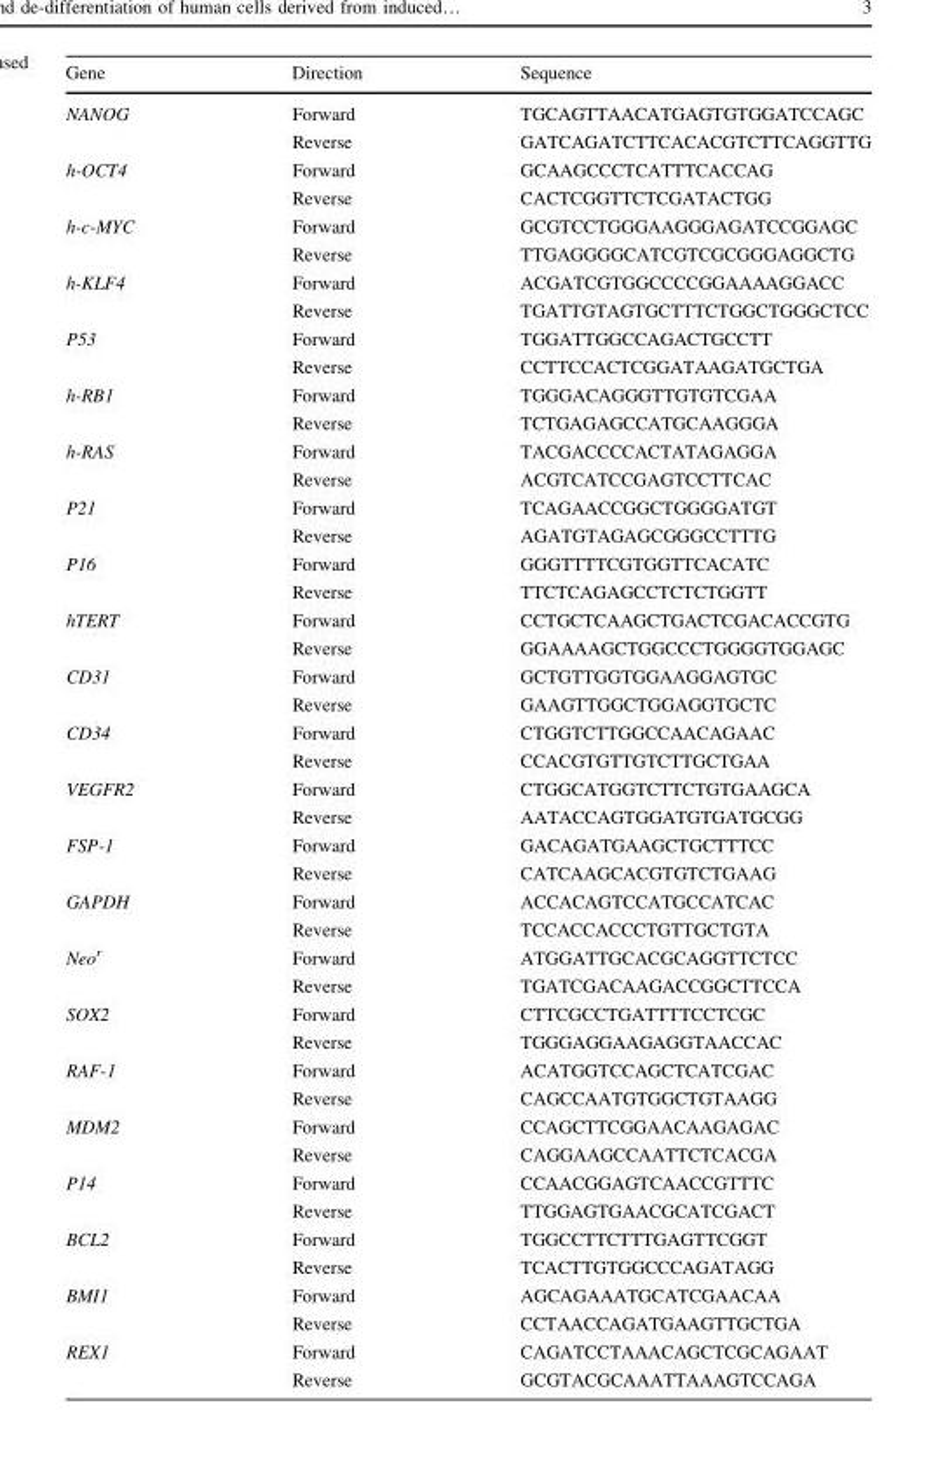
<table><thead><tr><td>Gene</td><td>Direction</td><td>Sequence</td></tr></thead><tbody><tr><td rowspan="2">NANOG</td><td>Forward</td><td>TGCAGTTAACATGAGTGTGGATCCAGC</td></tr><tr><td>Reverse</td><td>GATCAGATCTTCACACGTCTTCAGGTTG</td></tr><tr><td rowspan="2">h-OCT4</td><td>Forward</td><td>GCAAGCCCTCATTTCACCAG</td></tr><tr><td>Reverse</td><td>CACTCGGTTCTCGATACTGG</td></tr><tr><td rowspan="2">h-c-MYC</td><td>Forward</td><td>GCGTCCTGGGAAGGGAGATCCGGAGC</td></tr><tr><td>Reverse</td><td>TTGAGGGGCATCGTCGCGGGAGGCTG</td></tr><tr><td rowspan="2">h-KLF4</td><td>Forward</td><td>ACGATCGTGGCCCCGGAAAAGGACC</td></tr><tr><td>Reverse</td><td>TGATTGTAGTGCTTTCTGGCTGGGCTCC</td></tr><tr><td rowspan="2">P53</td><td>Forward</td><td>TGGATTGGCCAGACTGCCTT</td></tr><tr><td>Reverse</td><td>CCTTCCACTCGGATAAGATGCTGA</td></tr><tr><td rowspan="2">h-RB1</td><td>Forward</td><td>TGGGACAGGGTTGTGTCGAA</td></tr><tr><td>Reverse</td><td>TCTGAGAGCCATGCAAGGGA</td></tr><tr><td rowspan="2">h-RAS</td><td>Forward</td><td>TACGACCCCACTATAGAGGA</td></tr><tr><td>Reverse</td><td>ACGTCATCCGAGTCCTTCAC</td></tr><tr><td rowspan="2">P21</td><td>Forward</td><td>TCAGAACCGGCTGGGGATGT</td></tr><tr><td>Reverse</td><td>AGATGTAGAGCGGGCCTTTG</td></tr><tr><td rowspan="2">P16</td><td>Forward</td><td>GGGTTTTCGTGGTTCACATC</td></tr><tr><td>Reverse</td><td>TTCTCAGAGCCTCTCTGGTT</td></tr><tr><td rowspan="2">hTERT</td><td>Forward</td><td>CCTGCTCAAGCTGACTCGACACCGTG</td></tr><tr><td>Reverse</td><td>GGAAAAGCTGGCCCTGGGGTGGAGC</td></tr><tr><td rowspan="2">CD31</td><td>Forward</td><td>GCTGTTGGTGGAAGGAGTGC</td></tr><tr><td>Reverse</td><td>GAAGTTGGCTGGAGGTGCTC</td></tr><tr><td rowspan="2">CD34</td><td>Forward</td><td>CTGGTCTTGGCCAACAGAAC</td></tr><tr><td>Reverse</td><td>CCACGTGTTGTCTTGCTGAA</td></tr><tr><td rowspan="2">VEGFR2</td><td>Forward</td><td>CTGGCATGGTCTTCTGTGAAGCA</td></tr><tr><td>Reverse</td><td>AATACCAGTGGATGTGATGCGG</td></tr><tr><td rowspan="2">FSP-1</td><td>Forward</td><td>GACAGATGAAGCTGCTTTCC</td></tr><tr><td>Reverse</td><td>CATCAAGCACGTGTCTGAAG</td></tr><tr><td rowspan="2">GAPDH</td><td>Forward</td><td>ACCACAGTCCATGCCATCAC</td></tr><tr><td>Reverse</td><td>TCCACCACCCTGTTGCTGTA</td></tr><tr><td rowspan="2">Neo<sup>r</sup></td><td>Forward</td><td>ATGGATTGCACGCAGGTTCTCC</td></tr><tr><td>Reverse</td><td>TGATCGACAAGACCGGCTTCCA</td></tr><tr><td rowspan="2">SOX2</td><td>Forward</td><td>CTTCGCCTGATTTTCCTCGC</td></tr><tr><td>Reverse</td><td>TGGGAGGAAGAGGTAACCAC</td></tr><tr><td rowspan="2">RAF-1</td><td>Forward</td><td>ACATGGTCCAGCTCATCGAC</td></tr><tr><td>Reverse</td><td>CAGCCAATGTGGCTGTAAGG</td></tr><tr><td rowspan="2">MDM2</td><td>Forward</td><td>CCAGCTTCGGAACAAGAGAC</td></tr><tr><td>Reverse</td><td>CAGGAAGCCAATTCTCACGA</td></tr><tr><td rowspan="2">P14</td><td>Forward</td><td>CCAACGGAGTCAACCGTTTC</td></tr><tr><td>Reverse</td><td>TTGGAGTGAACGCATCGACT</td></tr><tr><td rowspan="2">BCL2</td><td>Forward</td><td>TGGCCTTCTTTGAGTTCGGT</td></tr><tr><td>Reverse</td><td>TCACTTGTGGCCCAGATAGG</td></tr><tr><td rowspan="2">BMI1</td><td>Forward</td><td>AGCAGAAATGCATCGAACAA</td></tr><tr><td>Reverse</td><td>CCTAACCAGATGAAGTTGCTGA</td></tr><tr><td rowspan="2">REX1</td><td>Forward</td><td>CAGATCCTAAACAGCTCGCAGAAT</td></tr><tr><td>Reverse</td><td>GCGTACGCAAATTAAAGTCCAGA</td></tr></tbody></table>